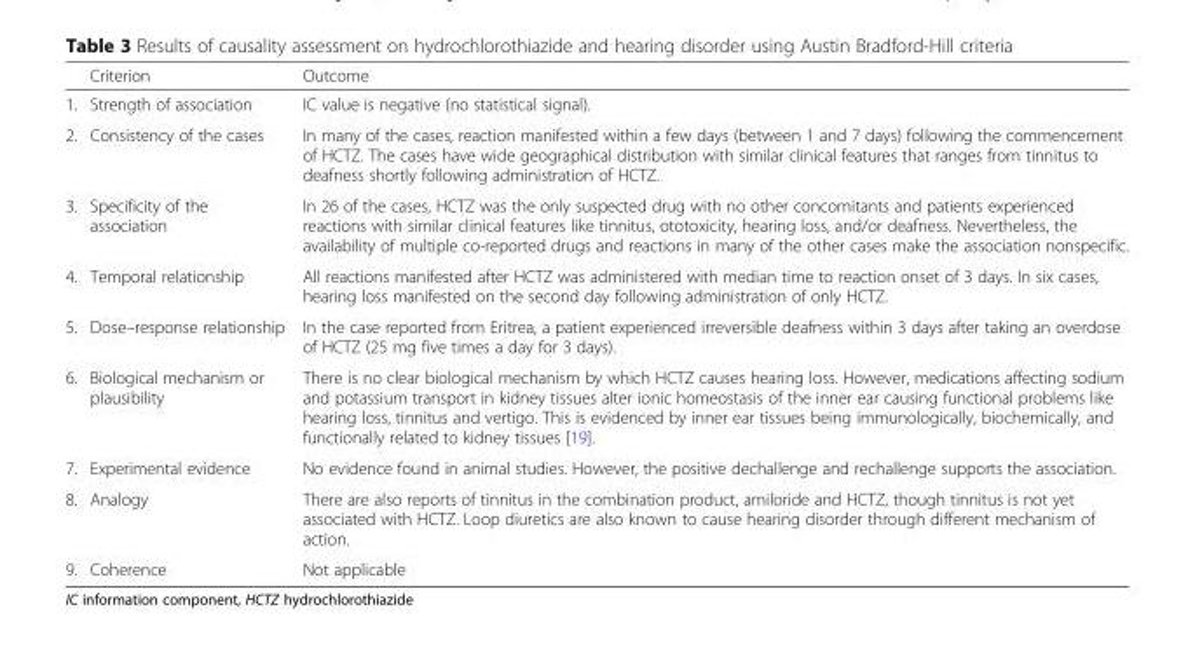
<table><thead><tr><td></td><td>Criterion</td><td>Outcome</td></tr></thead><tbody><tr><td>1.</td><td>Strength of association</td><td>IC value is negative (no statistical signal).</td></tr><tr><td>2.</td><td>Consistency of the cases</td><td>In many of the cases, reaction manifested within a few days (between 1 and 7 days) following the commencement of HCTZ. The cases have wide geographical distribution with similar clinical features that ranges from tinnitus to deafness shortly following administration of HCTZ.</td></tr><tr><td>3.</td><td>Specificity of the association</td><td>In 26 of the cases, HCTZ was the only suspected drug with no other concomitants and patients experienced reactions with similar clinical features like tinnitus, ototoxicity, hearing loss, and/or deafness. Nevertheless, the availability of multiple co-reported drugs and reactions in many of the other cases make the association nonspecific.</td></tr><tr><td>4.</td><td>Temporal relationship</td><td>All reactions manifested after HCTZ was administered with median time to reaction onset of 3 days. In six cases, hearing loss manifested on the second day following administration of only HCTZ.</td></tr><tr><td>5.</td><td>Dose–response relationship</td><td>In the case reported from Eritrea, a patient experienced irreversible deafness within 3 days after taking an overdose of HCTZ (25 mg five times a day for 3 days).</td></tr><tr><td>6.</td><td>Biological mechanism or plausibility</td><td>There is no clear biological mechanism by which HCTZ causes hearing loss. However, medications affecting sodium and potassium transport in kidney tissues alter ionic homeostasis of the inner ear causing functional problems like hearing loss, tinnitus and vertigo. This is evidenced by inner ear tissues being immunologically, biochemically, and functionally related to kidney tissues [19].</td></tr><tr><td>7.</td><td>Experimental evidence</td><td>No evidence found in animal studies. However, the positive dechallenge and rechallenge supports the association.</td></tr><tr><td>8.</td><td>Analogy</td><td>There are also reports of tinnitus in the combination product, amiloride and HCTZ, though tinnitus is not yet associated with HCTZ. Loop diuretics are also known to cause hearing disorder through different mechanism of action.</td></tr><tr><td>9.</td><td>Coherence</td><td>Not applicable</td></tr></tbody></table>